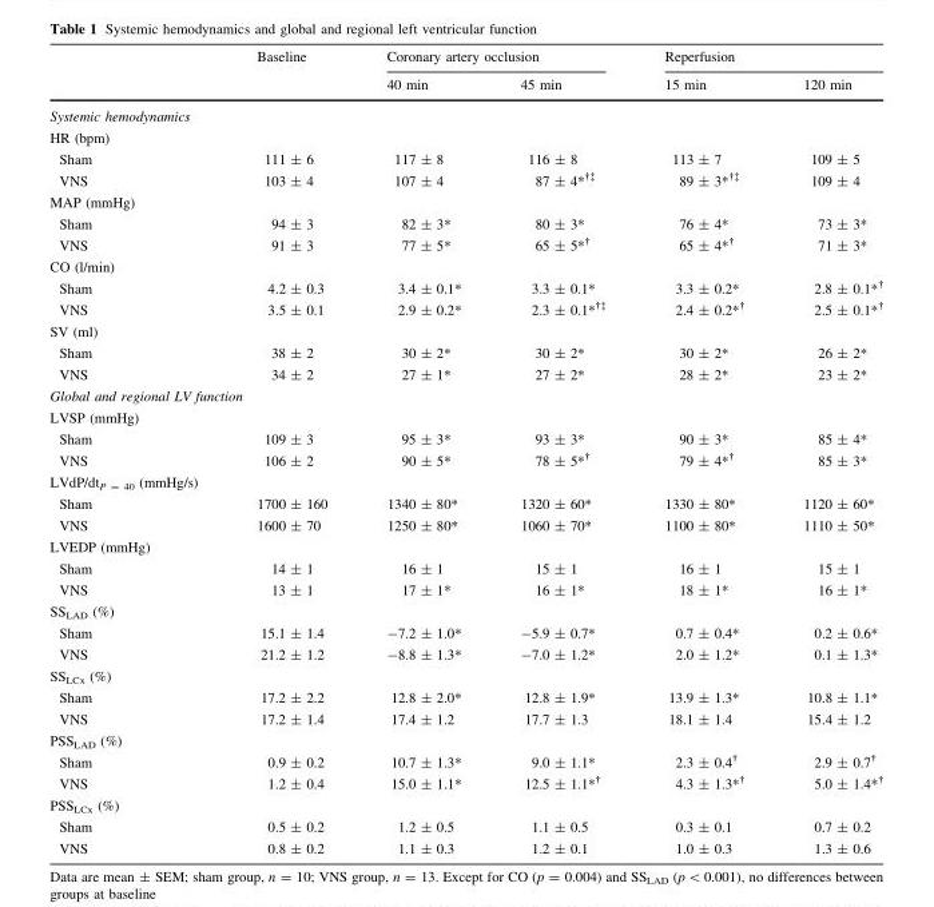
<table><thead><tr><td rowspan="2"></td><td rowspan="2">Baseline</td><td colspan="2">Coronary artery occlusion</td><td colspan="2">Reperfusion</td></tr><tr><td>40 min</td><td>45 min</td><td>15 min</td><td>120 min</td></tr></thead><tbody><tr><td colspan="6">Systemic hemodynamics</td></tr><tr><td colspan="6">HR (bpm)</td></tr><tr><td>Sham</td><td>111 ± 6</td><td>117 ± 8</td><td>116 ± 8</td><td>113 ± 7</td><td>109 ± 5</td></tr><tr><td>VNS</td><td>103 ± 4</td><td>107 ± 4</td><td>87 ± 4*<sup>†‡</sup></td><td>89 ± 3*<sup>†‡</sup></td><td>109 ± 4</td></tr><tr><td colspan="6">MAP (mmHg)</td></tr><tr><td>Sham</td><td>94 ± 3</td><td>82 ± 3*</td><td>80 ± 3*</td><td>76 ± 4*</td><td>73 ± 3*</td></tr><tr><td>VNS</td><td>91 ± 3</td><td>77 ± 5*</td><td>65 ± 5*<sup>†</sup></td><td>65 ± 4*<sup>†</sup></td><td>71 ± 3*</td></tr><tr><td colspan="6">CO (l/min)</td></tr><tr><td>Sham</td><td>4.2 ± 0.3</td><td>3.4 ± 0.1*</td><td>3.3 ± 0.1*</td><td>3.3 ± 0.2*</td><td>2.8 ± 0.1*<sup>†</sup></td></tr><tr><td>VNS</td><td>3.5 ± 0.1</td><td>2.9 ± 0.2*</td><td>2.3 ± 0.1*<sup>†‡</sup></td><td>2.4 ± 0.2*<sup>†</sup></td><td>2.5 ± 0.1*<sup>†</sup></td></tr><tr><td colspan="6">SV (ml)</td></tr><tr><td>Sham</td><td>38 ± 2</td><td>30 ± 2*</td><td>30 ± 2*</td><td>30 ± 2*</td><td>26 ± 2*</td></tr><tr><td>VNS</td><td>34 ± 2</td><td>27 ± 1*</td><td>27 ± 2*</td><td>28 ± 2*</td><td>23 ± 2*</td></tr><tr><td colspan="6">Global and regional LV function</td></tr><tr><td colspan="6">LVSP (mmHg)</td></tr><tr><td>Sham</td><td>109 ± 3</td><td>95 ± 3*</td><td>93 ± 3*</td><td>90 ± 3*</td><td>85 ± 4*</td></tr><tr><td>VNS</td><td>106 ± 2</td><td>90 ± 5*</td><td>78 ± 5*<sup>†</sup></td><td>79 ± 4*<sup>†</sup></td><td>85 ± 3*</td></tr><tr><td colspan="6">LVdP/dt<sub>P = 40</sub> (mmHg/s)</td></tr><tr><td>Sham</td><td>1700 ± 160</td><td>1340 ± 80*</td><td>1320 ± 60*</td><td>1330 ± 80*</td><td>1120 ± 60*</td></tr><tr><td>VNS</td><td>1600 ± 70</td><td>1250 ± 80*</td><td>1060 ± 70*</td><td>1100 ± 80*</td><td>1110 ± 50*</td></tr><tr><td colspan="6">LVEDP (mmHg)</td></tr><tr><td>Sham</td><td>14 ± 1</td><td>16 ± 1</td><td>15 ± 1</td><td>16 ± 1</td><td>15 ± 1</td></tr><tr><td>VNS</td><td>13 ± 1</td><td>17 ± 1*</td><td>16 ± 1*</td><td>18 ± 1*</td><td>16 ± 1*</td></tr><tr><td colspan="6">SS<sub>LAD</sub> (%)</td></tr><tr><td>Sham</td><td>15.1 ± 1.4</td><td>-7.2 ± 1.0*</td><td>-5.9 ± 0.7*</td><td>0.7 ± 0.4*</td><td>0.2 ± 0.6*</td></tr><tr><td>VNS</td><td>21.2 ± 1.2</td><td>-8.8 ± 1.3*</td><td>-7.0 ± 1.2*</td><td>2.0 ± 1.2*</td><td>0.1 ± 1.3*</td></tr><tr><td colspan="6">SS<sub>LCx</sub> (%)</td></tr><tr><td>Sham</td><td>17.2 ± 2.2</td><td>12.8 ± 2.0*</td><td>12.8 ± 1.9*</td><td>13.9 ± 1.3*</td><td>10.8 ± 1.1*</td></tr><tr><td>VNS</td><td>17.2 ± 1.4</td><td>17.4 ± 1.2</td><td>17.7 ± 1.3</td><td>18.1 ± 1.4</td><td>15.4 ± 1.2</td></tr><tr><td colspan="6">PSS<sub>LAD</sub> (%)</td></tr><tr><td>Sham</td><td>0.9 ± 0.2</td><td>10.7 ± 1.3*</td><td>9.0 ± 1.1*</td><td>2.3 ± 0.4<sup>†</sup></td><td>2.9 ± 0.7<sup>†</sup></td></tr><tr><td>VNS</td><td>1.2 ± 0.4</td><td>15.0 ± 1.1*</td><td>12.5 ± 1.1*<sup>†</sup></td><td>4.3 ± 1.3*<sup>†</sup></td><td>5.0 ± 1.4*<sup>†</sup></td></tr><tr><td colspan="6">PSS<sub>LCx</sub> (%)</td></tr><tr><td>Sham</td><td>0.5 ± 0.2</td><td>1.2 ± 0.5</td><td>1.1 ± 0.5</td><td>0.3 ± 0.1</td><td>0.7 ± 0.2</td></tr><tr><td>VNS</td><td>0.8 ± 0.2</td><td>1.1 ± 0.3</td><td>1.2 ± 0.1</td><td>1.0 ± 0.3</td><td>1.3 ± 0.6</td></tr></tbody></table>